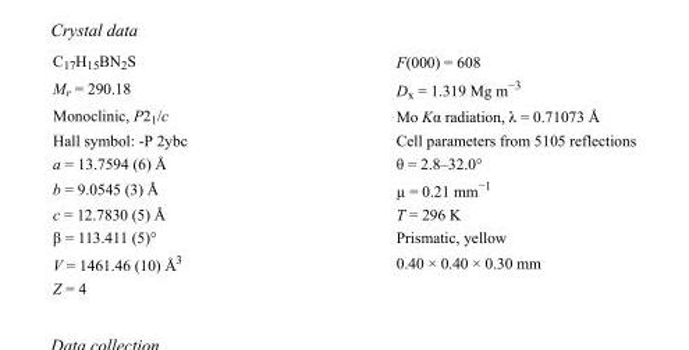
<table><tbody><tr><td>C<sub>17</sub>H<sub>15</sub>BN<sub>2</sub>S</td><td>F(000) = 608</td></tr><tr><td>M<sub>r</sub> = 290.18</td><td>D<sub>x</sub> = 1.319 Mg m<sup>−3</sup></td></tr><tr><td>Monoclinic, P2<sub>1</sub>/c</td><td>Mo Kα radiation, λ = 0.71073 Å</td></tr><tr><td>Hall symbol: -P 2ybc</td><td>Cell parameters from 5105 reflections</td></tr><tr><td>a = 13.7594 (6) Å</td><td>θ = 2.8–32.0°</td></tr><tr><td>b = 9.0545 (3) Å</td><td>µ = 0.21 mm<sup>−1</sup></td></tr><tr><td>c = 12.7830 (5) Å</td><td>T = 296 K</td></tr><tr><td>β = 113.411 (5)°</td><td>Prismatic, yellow</td></tr><tr><td>V = 1461.46 (10) Å<sup>3</sup></td><td>0.40 × 0.40 × 0.30 mm</td></tr><tr><td>Z = 4</td><td></td></tr></tbody></table>